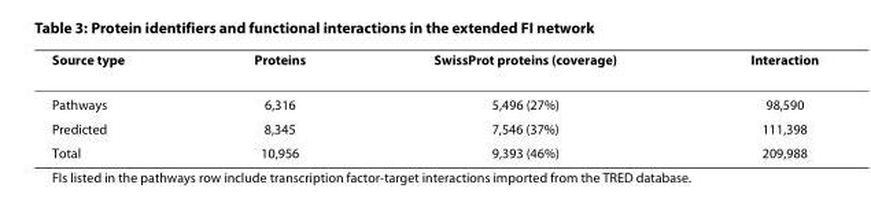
<table><thead><tr><td>Source type</td><td>Proteins</td><td>SwissProt proteins (coverage)</td><td>Interaction</td></tr></thead><tbody><tr><td>Pathways</td><td>6,316</td><td>5,496 (27%)</td><td>98,590</td></tr><tr><td>Predicted</td><td>8,345</td><td>7,546 (37%)</td><td>111,398</td></tr><tr><td>Total</td><td>10,956</td><td>9,393 (46%)</td><td>209,988</td></tr></tbody></table>